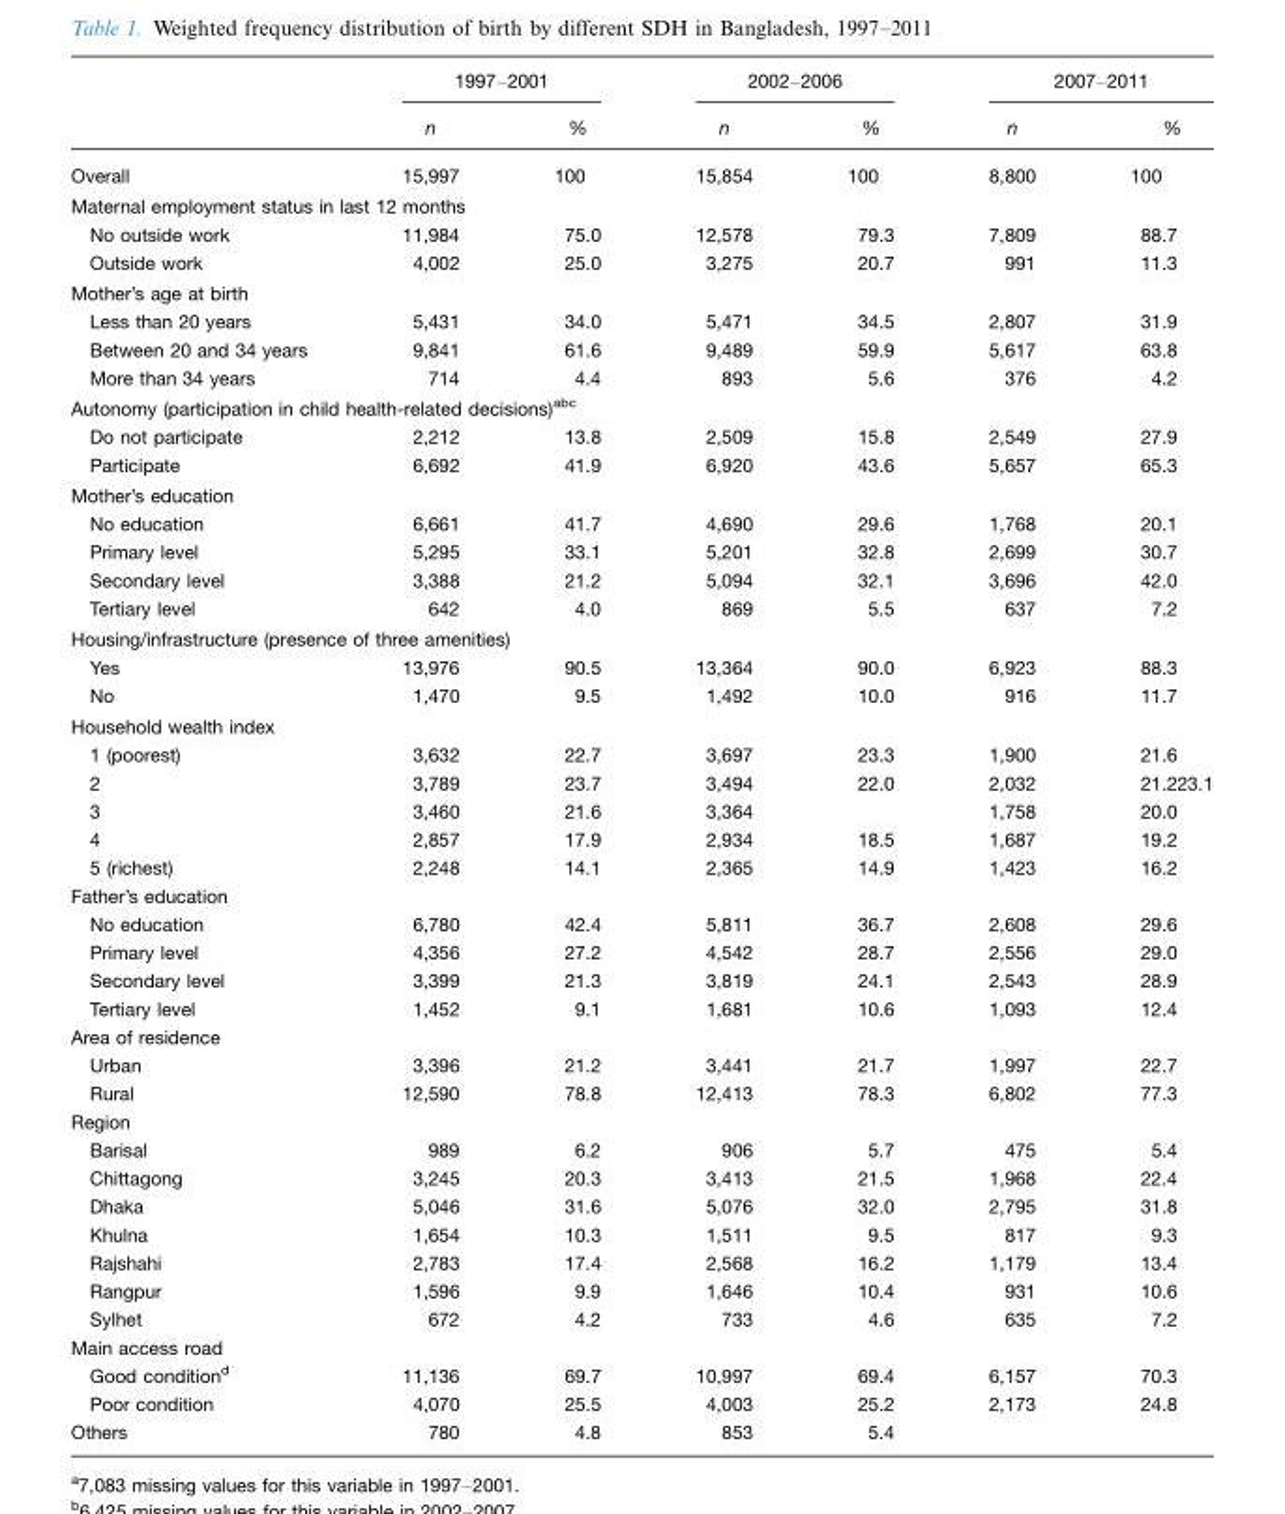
<table><thead><tr><td rowspan="2"></td><td colspan="2">1997–2001</td><td colspan="2">2002–2006</td><td colspan="2">2007–2011</td></tr><tr><td>n</td><td>%</td><td>n</td><td>%</td><td>n</td><td>%</td></tr></thead><tbody><tr><td>Overall</td><td>15,997</td><td>100</td><td>15,854</td><td>100</td><td>8,800</td><td>100</td></tr><tr><td colspan="7">Maternal employment status in last 12 months</td></tr><tr><td>No outside work</td><td>11,984</td><td>75.0</td><td>12,578</td><td>79.3</td><td>7,809</td><td>88.7</td></tr><tr><td>Outside work</td><td>4,002</td><td>25.0</td><td>3,275</td><td>20.7</td><td>991</td><td>11.3</td></tr><tr><td colspan="7">Mother’s age at birth</td></tr><tr><td>Less than 20 years</td><td>5,431</td><td>34.0</td><td>5,471</td><td>34.5</td><td>2,807</td><td>31.9</td></tr><tr><td>Between 20 and 34 years</td><td>9,841</td><td>61.6</td><td>9,489</td><td>59.9</td><td>5,617</td><td>63.8</td></tr><tr><td>More than 34 years</td><td>714</td><td>4.4</td><td>893</td><td>5.6</td><td>376</td><td>4.2</td></tr><tr><td colspan="7">Autonomy (participation in child health-related decisions)<sup>abc</sup></td></tr><tr><td>Do not participate</td><td>2,212</td><td>13.8</td><td>2,509</td><td>15.8</td><td>2,549</td><td>27.9</td></tr><tr><td>Participate</td><td>6,692</td><td>41.9</td><td>6,920</td><td>43.6</td><td>5,657</td><td>65.3</td></tr><tr><td colspan="7">Mother’s education</td></tr><tr><td>No education</td><td>6,661</td><td>41.7</td><td>4,690</td><td>29.6</td><td>1,768</td><td>20.1</td></tr><tr><td>Primary level</td><td>5,295</td><td>33.1</td><td>5,201</td><td>32.8</td><td>2,699</td><td>30.7</td></tr><tr><td>Secondary level</td><td>3,388</td><td>21.2</td><td>5,094</td><td>32.1</td><td>3,696</td><td>42.0</td></tr><tr><td>Tertiary level</td><td>642</td><td>4.0</td><td>869</td><td>5.5</td><td>637</td><td>7.2</td></tr><tr><td colspan="7">Housing/infrastructure (presence of three amenities)</td></tr><tr><td>Yes</td><td>13,976</td><td>90.5</td><td>13,364</td><td>90.0</td><td>6,923</td><td>88.3</td></tr><tr><td>No</td><td>1,470</td><td>9.5</td><td>1,492</td><td>10.0</td><td>916</td><td>11.7</td></tr><tr><td colspan="7">Household wealth index</td></tr><tr><td>1 (poorest)</td><td>3,632</td><td>22.7</td><td>3,697</td><td>23.3</td><td>1,900</td><td>21.6</td></tr><tr><td>2</td><td>3,789</td><td>23.7</td><td>3,494</td><td>22.0</td><td>2,032</td><td>21.223.1</td></tr><tr><td>3</td><td>3,460</td><td>21.6</td><td>3,364</td><td></td><td>1,758</td><td>20.0</td></tr><tr><td>4</td><td>2,857</td><td>17.9</td><td>2,934</td><td>18.5</td><td>1,687</td><td>19.2</td></tr><tr><td>5 (richest)</td><td>2,248</td><td>14.1</td><td>2,365</td><td>14.9</td><td>1,423</td><td>16.2</td></tr><tr><td colspan="7">Father’s education</td></tr><tr><td>No education</td><td>6,780</td><td>42.4</td><td>5,811</td><td>36.7</td><td>2,608</td><td>29.6</td></tr><tr><td>Primary level</td><td>4,356</td><td>27.2</td><td>4,542</td><td>28.7</td><td>2,556</td><td>29.0</td></tr><tr><td>Secondary level</td><td>3,399</td><td>21.3</td><td>3,819</td><td>24.1</td><td>2,543</td><td>28.9</td></tr><tr><td>Tertiary level</td><td>1,452</td><td>9.1</td><td>1,681</td><td>10.6</td><td>1,093</td><td>12.4</td></tr><tr><td colspan="7">Area of residence</td></tr><tr><td>Urban</td><td>3,396</td><td>21.2</td><td>3,441</td><td>21.7</td><td>1,997</td><td>22.7</td></tr><tr><td>Rural</td><td>12,590</td><td>78.8</td><td>12,413</td><td>78.3</td><td>6,802</td><td>77.3</td></tr><tr><td colspan="7">Region</td></tr><tr><td>Barisal</td><td>989</td><td>6.2</td><td>906</td><td>5.7</td><td>475</td><td>5.4</td></tr><tr><td>Chittagong</td><td>3,245</td><td>20.3</td><td>3,413</td><td>21.5</td><td>1,968</td><td>22.4</td></tr><tr><td>Dhaka</td><td>5,046</td><td>31.6</td><td>5,076</td><td>32.0</td><td>2,795</td><td>31.8</td></tr><tr><td>Khulna</td><td>1,654</td><td>10.3</td><td>1,511</td><td>9.5</td><td>817</td><td>9.3</td></tr><tr><td>Rajshahi</td><td>2,783</td><td>17.4</td><td>2,568</td><td>16.2</td><td>1,179</td><td>13.4</td></tr><tr><td>Rangpur</td><td>1,596</td><td>9.9</td><td>1,646</td><td>10.4</td><td>931</td><td>10.6</td></tr><tr><td>Sylhet</td><td>672</td><td>4.2</td><td>733</td><td>4.6</td><td>635</td><td>7.2</td></tr><tr><td colspan="7">Main access road</td></tr><tr><td>Good condition<sup>d</sup></td><td>11,136</td><td>69.7</td><td>10,997</td><td>69.4</td><td>6,157</td><td>70.3</td></tr><tr><td>Poor condition</td><td>4,070</td><td>25.5</td><td>4,003</td><td>25.2</td><td>2,173</td><td>24.8</td></tr><tr><td>Others</td><td>780</td><td>4.8</td><td>853</td><td>5.4</td><td></td><td></td></tr></tbody></table>